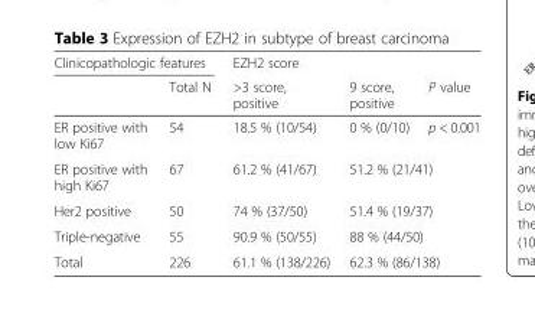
<table><thead><tr><td colspan="2">Clinicopathologic features</td><td rowspan="2">EZH2 score &gt;3 score, positive</td><td rowspan="2">9 score, positive</td><td rowspan="2">P value</td></tr><tr><td></td><td>Total N</td></tr></thead><tbody><tr><td>ER positive with low Ki67</td><td>54</td><td>18.5 % (10/54)</td><td>0 % (0/10)</td><td>p &lt; 0.001</td></tr><tr><td>ER positive with high Ki67</td><td>67</td><td>61.2 % (41/67)</td><td colspan="2">51.2 % (21/41)</td></tr><tr><td>Her2 positive</td><td>50</td><td>74 % (37/50)</td><td colspan="2">51.4 % (19/37)</td></tr><tr><td>Triple-negative</td><td>55</td><td>90.9 % (50/55)</td><td colspan="2">88 % (44/50)</td></tr><tr><td>Total</td><td>226</td><td>61.1 % (138/226)</td><td colspan="2">62.3 % (86/138)</td></tr></tbody></table>